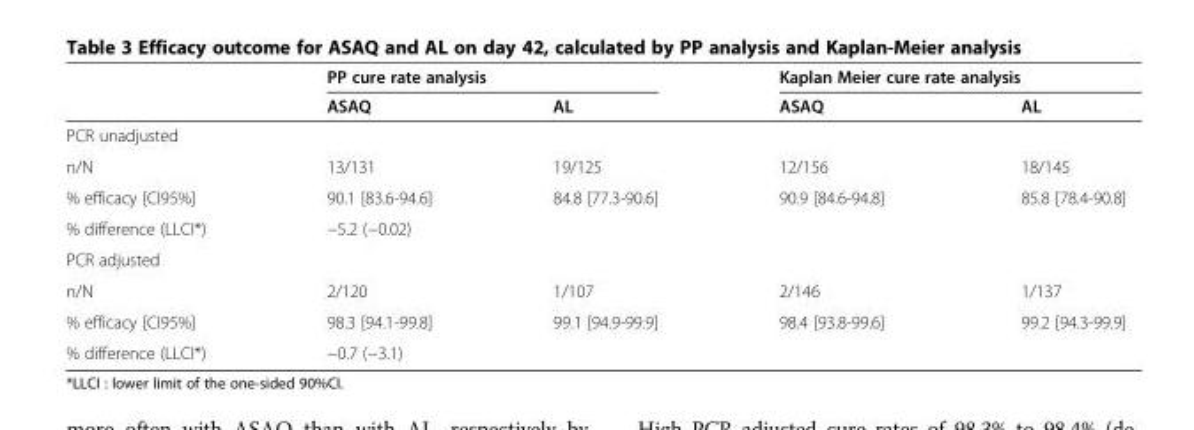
<table><thead><tr><td rowspan="2"></td><td colspan="2">PP cure rate analysis</td><td colspan="2">Kaplan Meier cure rate analysis</td></tr><tr><td>ASAQ</td><td>AL</td><td>ASAQ</td><td>AL</td></tr></thead><tbody><tr><td colspan="5">PCR unadjusted</td></tr><tr><td>n/N</td><td>13/131</td><td>19/125</td><td>12/156</td><td>18/145</td></tr><tr><td>% efficacy [CI95%]</td><td>90.1 [83.6-94.6]</td><td>84.8 [77.3-90.6]</td><td>90.9 [84.6-94.8]</td><td>85.8 [78.4-90.8]</td></tr><tr><td>% difference (LLCI*)</td><td colspan="2">−5.2 (−0.02)</td><td colspan="2"></td></tr><tr><td colspan="5">PCR adjusted</td></tr><tr><td>n/N</td><td>2/120</td><td>1/107</td><td>2/146</td><td>1/137</td></tr><tr><td>% efficacy [CI95%]</td><td>98.3 [94.1-99.8]</td><td>99.1 [94.9-99.9]</td><td>98.4 [93.8-99.6]</td><td>99.2 [94.3-99.9]</td></tr><tr><td>% difference (LLCI*)</td><td colspan="2">−0.7 (−3.1)</td><td colspan="2"></td></tr></tbody></table>